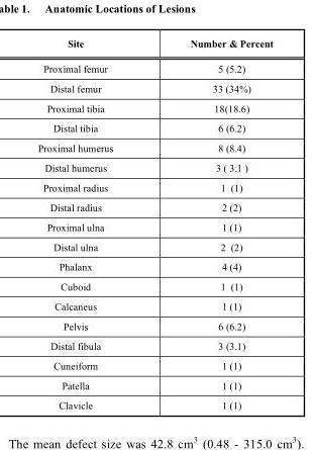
<table><thead><tr><td>Site</td><td>Number &amp; Percent</td></tr></thead><tbody><tr><td>Proximal femur</td><td>5 (5.2)</td></tr><tr><td>Distal femur</td><td>33 (34%)</td></tr><tr><td>Proximal tibia</td><td>18(18.6)</td></tr><tr><td>Distal tibia</td><td>6 (6.2)</td></tr><tr><td>Proximal humerus</td><td>8 (8.4)</td></tr><tr><td>Distal humerus</td><td>3 ( 3.1 )</td></tr><tr><td>Proximal radius</td><td>1 (1)</td></tr><tr><td>Distal radius</td><td>2 (2)</td></tr><tr><td>Proximal ulna</td><td>1 (1)</td></tr><tr><td>Distal ulna</td><td>2 (2)</td></tr><tr><td>Phalanx</td><td>4 (4)</td></tr><tr><td>Cuboid</td><td>1 (1)</td></tr><tr><td>Calcaneus</td><td>1 (1)</td></tr><tr><td>Pelvis</td><td>6 (6.2)</td></tr><tr><td>Distal fibula</td><td>3 (3.1)</td></tr><tr><td>Cuneiform</td><td>1 (1)</td></tr><tr><td>Patella</td><td>1 (1)</td></tr><tr><td>Clavicle</td><td>1 (1)</td></tr></tbody></table>